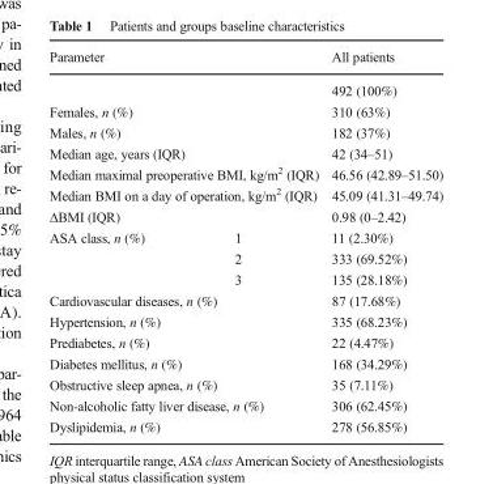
<table><thead><tr><td colspan="2">Parameter</td><td>All patients</td></tr></thead><tbody><tr><td colspan="2"></td><td>492 (100%)</td></tr><tr><td colspan="2">Females, n (%)</td><td>310 (63%)</td></tr><tr><td colspan="2">Males, n (%)</td><td>182 (37%)</td></tr><tr><td colspan="2">Median age, years (IQR)</td><td>42 (34–51)</td></tr><tr><td colspan="2">Median maximal preoperative BMI, kg/m<sup>2</sup> (IQR)</td><td>46.56 (42.89–51.50)</td></tr><tr><td colspan="2">Median BMI on a day of operation, kg/m<sup>2</sup> (IQR)</td><td>45.09 (41.31–49.74)</td></tr><tr><td colspan="2">ΔBMI (IQR)</td><td>0.98 (0–2.42)</td></tr><tr><td rowspan="3">ASA class, n (%)</td><td>1</td><td>11 (2.30%)</td></tr><tr><td>2</td><td>333 (69.52%)</td></tr><tr><td>3</td><td>135 (28.18%)</td></tr><tr><td colspan="2">Cardiovascular diseases, n (%)</td><td>87 (17.68%)</td></tr><tr><td colspan="2">Hypertension, n (%)</td><td>335 (68.23%)</td></tr><tr><td colspan="2">Prediabetes, n (%)</td><td>22 (4.47%)</td></tr><tr><td colspan="2">Diabetes mellitus, n (%)</td><td>168 (34.29%)</td></tr><tr><td colspan="2">Obstructive sleep apnea, n (%)</td><td>35 (7.11%)</td></tr><tr><td colspan="2">Non-alcoholic fatty liver disease, n (%)</td><td>306 (62.45%)</td></tr><tr><td colspan="2">Dyslipidemia, n (%)</td><td>278 (56.85%)</td></tr></tbody></table>